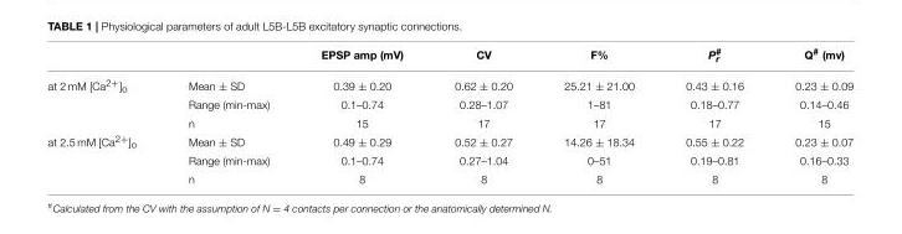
<table><thead><tr><td></td><td></td><td>EPSP amp (mV)</td><td>CV</td><td>F%</td><td>P#r</td><td>Q<sup>#</sup> (mv)</td></tr></thead><tbody><tr><td rowspan="3">at 2 mM [Ca<sup>2+</sup>]<sub>o</sub></td><td>Mean ± SD</td><td>0.39 ± 0.20</td><td>0.62 ± 0.20</td><td>25.21 ± 21.00</td><td>0.43 ± 0.16</td><td>0.23 ± 0.09</td></tr><tr><td>Range (min-max)</td><td>0.1–0.74</td><td>0.28–1.07</td><td>1–81</td><td>0.18–0.77</td><td>0.14–0.46</td></tr><tr><td>n</td><td>15</td><td>17</td><td>17</td><td>17</td><td>15</td></tr><tr><td rowspan="3">at 2.5 mM [Ca<sup>2+</sup>]<sub>o</sub></td><td>Mean ± SD</td><td>0.49 ± 0.29</td><td>0.52 ± 0.27</td><td>14.26 ± 18.34</td><td>0.55 ± 0.22</td><td>0.23 ± 0.07</td></tr><tr><td>Range (min-max)</td><td>0.1–0.74</td><td>0.27–1.04</td><td>0–51</td><td>0.19–0.81</td><td>0.16–0.33</td></tr><tr><td>n</td><td>8</td><td>8</td><td>8</td><td>8</td><td>8</td></tr></tbody></table>